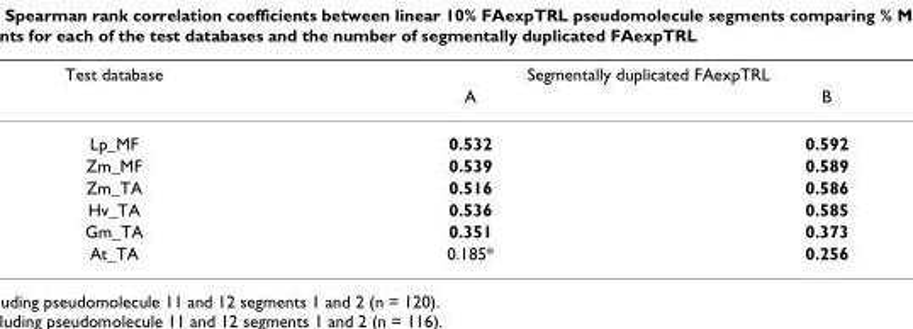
<table><thead><tr><td rowspan="2">Test database</td><td colspan="2">Segmentally duplicated FAexpTRL</td></tr><tr><td>A</td><td>B</td></tr></thead><tbody><tr><td>Lp_MF</td><td>0.532</td><td>0.592</td></tr><tr><td>Zm_MF</td><td>0.539</td><td>0.589</td></tr><tr><td>Zm_TA</td><td>0.516</td><td>0.586</td></tr><tr><td>Hv_TA</td><td>0.536</td><td>0.585</td></tr><tr><td>Gm_TA</td><td>0.351</td><td>0.373</td></tr><tr><td>At_TA</td><td>0.185*</td><td>0.256</td></tr></tbody></table>